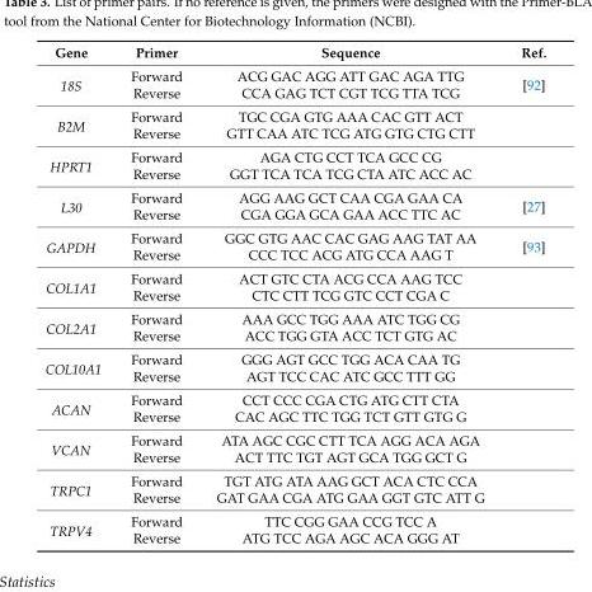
<table><thead><tr><td>Gene</td><td>Primer</td><td>Sequence</td><td>Ref.</td></tr></thead><tbody><tr><td rowspan="2">18S</td><td>Forward</td><td>ACG GAC AGG ATT GAC AGA TTG</td><td rowspan="2">[92]</td></tr><tr><td>Reverse</td><td>CCA GAG TCT CGT TCG TTA TCG</td></tr><tr><td rowspan="2">B2M</td><td>Forward</td><td>TGC CGA GTG AAA CAC GTT ACT</td><td rowspan="2"></td></tr><tr><td>Reverse</td><td>GTT CAA ATC TCG ATG GTG CTG CTT</td></tr><tr><td rowspan="2">HPRT1</td><td>Forward</td><td>AGA CTG CCT TCA GCC CG</td><td rowspan="2"></td></tr><tr><td>Reverse</td><td>GGT TCA TCA TCG CTA ATC ACC AC</td></tr><tr><td rowspan="2">L30</td><td>Forward</td><td>AGG AAG GCT CAA CGA GAA CA</td><td rowspan="2">[27]</td></tr><tr><td>Reverse</td><td>CGA GGA GCA GAA ACC TTC AC</td></tr><tr><td rowspan="2">GAPDH</td><td>Forward</td><td>GGC GTG AAC CAC GAG AAG TAT AA</td><td rowspan="2">[93]</td></tr><tr><td>Reverse</td><td>CCC TCC ACG ATG CCA AAG T</td></tr><tr><td rowspan="2">COL1A1</td><td>Forward</td><td>ACT GTC CTA ACG CCA AAG TCC</td><td rowspan="2"></td></tr><tr><td>Reverse</td><td>CTC CTT TCG GTC CCT CGA C</td></tr><tr><td rowspan="2">COL2A1</td><td>Forward</td><td>AAA GCC TGG AAA ATC TGG CG</td><td rowspan="2"></td></tr><tr><td>Reverse</td><td>ACC TGG GTA ACC TCT GTG AC</td></tr><tr><td rowspan="2">COL10A1</td><td>Forward</td><td>GGG AGT GCC TGG ACA CAA TG</td><td rowspan="2"></td></tr><tr><td>Reverse</td><td>AGT TCC CAC ATC GCC TTT GG</td></tr><tr><td rowspan="2">ACAN</td><td>Forward</td><td>CCT CCC CGA CTG ATG CTT CTA</td><td rowspan="2"></td></tr><tr><td>Reverse</td><td>CAC AGC TTC TGG TCT GTT GTG G</td></tr><tr><td rowspan="2">VCAN</td><td>Forward</td><td>ATA AGC CGC CTT TCA AGG ACA AGA</td><td rowspan="2"></td></tr><tr><td>Reverse</td><td>ACT TTC TGT AGT GCA TGG GCT G</td></tr><tr><td rowspan="2">TRPC1</td><td>Forward</td><td>TGT ATG ATA AAG GCT ACA CTC CCA</td><td rowspan="2"></td></tr><tr><td>Reverse</td><td>GAT GAA CGA ATG GAA GGT GTC ATT G</td></tr><tr><td rowspan="2">TRPV4</td><td>Forward</td><td>TTC CGG GAA CCG TCC A</td><td rowspan="2"></td></tr><tr><td>Reverse</td><td>ATG TCC AGA AGC ACA GGG AT</td></tr></tbody></table>